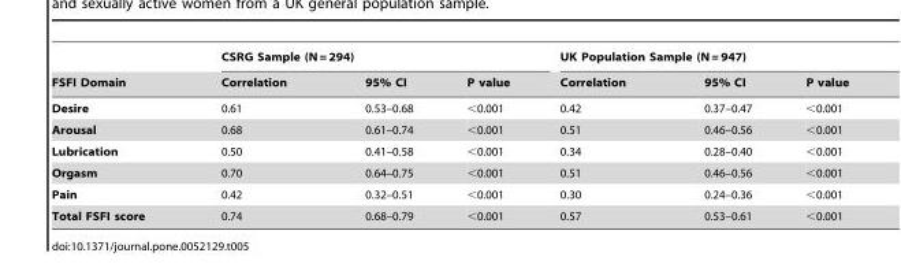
<table><thead><tr><td rowspan="2">FSFI Domain</td><td colspan="3">CSRG Sample (N = 294)</td><td colspan="3">UK Population Sample (N = 947)</td></tr><tr><td>Correlation</td><td>95% CI</td><td>P value</td><td>Correlation</td><td>95% CI</td><td>P value</td></tr></thead><tbody><tr><td>Desire</td><td>0.61</td><td>0.53–0.68</td><td>&lt;0.001</td><td>0.42</td><td>0.37–0.47</td><td>&lt;0.001</td></tr><tr><td>Arousal</td><td>0.68</td><td>0.61–0.74</td><td>&lt;0.001</td><td>0.51</td><td>0.46–0.56</td><td>&lt;0.001</td></tr><tr><td>Lubrication</td><td>0.50</td><td>0.41–0.58</td><td>&lt;0.001</td><td>0.34</td><td>0.28–0.40</td><td>&lt;0.001</td></tr><tr><td>Orgasm</td><td>0.70</td><td>0.64–0.75</td><td>&lt;0.001</td><td>0.51</td><td>0.46–0.56</td><td>&lt;0.001</td></tr><tr><td>Pain</td><td>0.42</td><td>0.32–0.51</td><td>&lt;0.001</td><td>0.30</td><td>0.24–0.36</td><td>&lt;0.001</td></tr><tr><td>Total FSFI score</td><td>0.74</td><td>0.68–0.79</td><td>&lt;0.001</td><td>0.57</td><td>0.53–0.61</td><td>&lt;0.001</td></tr></tbody></table>